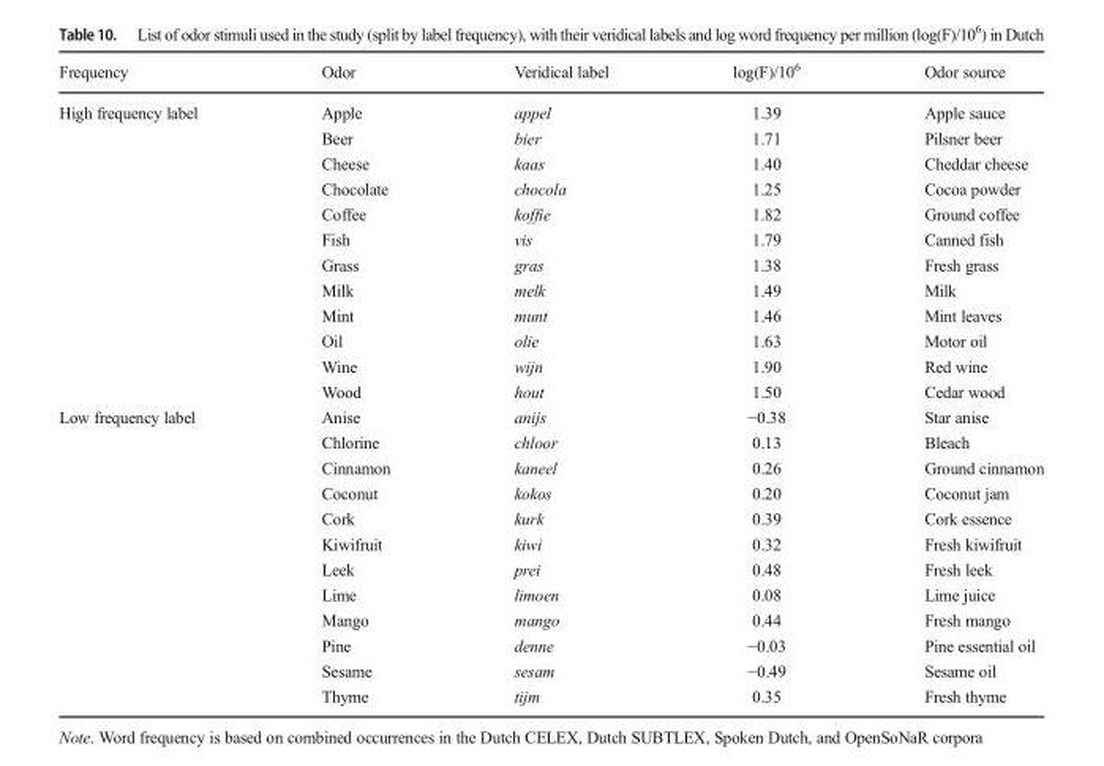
<table><thead><tr><td>Frequency</td><td>Odor</td><td>Veridical label</td><td>log(F)/10<sup>6</sup></td><td>Odor source</td></tr></thead><tbody><tr><td rowspan="12">High frequency label</td><td>Apple</td><td>appel</td><td>1.39</td><td>Apple sauce</td></tr><tr><td>Beer</td><td>bier</td><td>1.71</td><td>Pilsner beer</td></tr><tr><td>Cheese</td><td>kaas</td><td>1.40</td><td>Cheddar cheese</td></tr><tr><td>Chocolate</td><td>chocola</td><td>1.25</td><td>Cocoa powder</td></tr><tr><td>Coffee</td><td>koffie</td><td>1.82</td><td>Ground coffee</td></tr><tr><td>Fish</td><td>vis</td><td>1.79</td><td>Canned fish</td></tr><tr><td>Grass</td><td>gras</td><td>1.38</td><td>Fresh grass</td></tr><tr><td>Milk</td><td>melk</td><td>1.49</td><td>Milk</td></tr><tr><td>Mint</td><td>munt</td><td>1.46</td><td>Mint leaves</td></tr><tr><td>Oil</td><td>olie</td><td>1.63</td><td>Motor oil</td></tr><tr><td>Wine</td><td>wijn</td><td>1.90</td><td>Red wine</td></tr><tr><td>Wood</td><td>hout</td><td>1.50</td><td>Cedar wood</td></tr><tr><td rowspan="12">Low frequency label</td><td>Anise</td><td>anijs</td><td>−0.38</td><td>Star anise</td></tr><tr><td>Chlorine</td><td>chloor</td><td>0.13</td><td>Bleach</td></tr><tr><td>Cinnamon</td><td>kaneel</td><td>0.26</td><td>Ground cinnamon</td></tr><tr><td>Coconut</td><td>kokos</td><td>0.20</td><td>Coconut jam</td></tr><tr><td>Cork</td><td>kurk</td><td>0.39</td><td>Cork essence</td></tr><tr><td>Kiwifruit</td><td>kiwi</td><td>0.32</td><td>Fresh kiwifruit</td></tr><tr><td>Leek</td><td>prei</td><td>0.48</td><td>Fresh leek</td></tr><tr><td>Lime</td><td>limoen</td><td>0.08</td><td>Lime juice</td></tr><tr><td>Mango</td><td>mango</td><td>0.44</td><td>Fresh mango</td></tr><tr><td>Pine</td><td>denne</td><td>−0.03</td><td>Pine essential oil</td></tr><tr><td>Sesame</td><td>sesam</td><td>−0.49</td><td>Sesame oil</td></tr><tr><td>Thyme</td><td>tijm</td><td>0.35</td><td>Fresh thyme</td></tr></tbody></table>